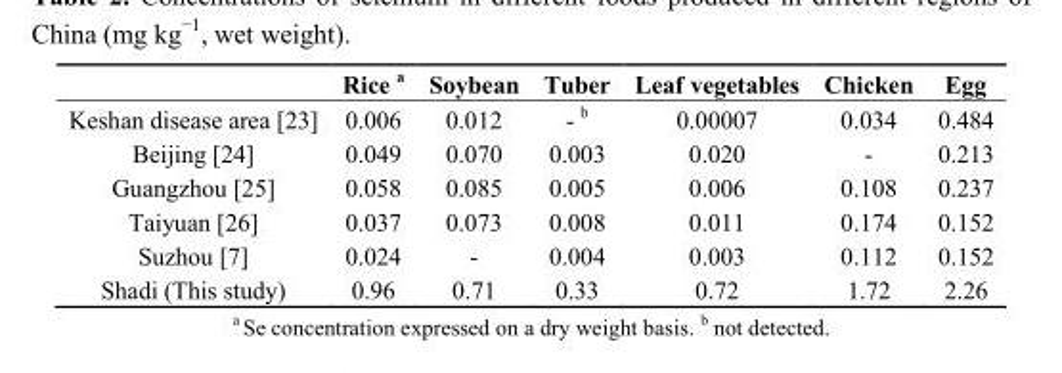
<table><thead><tr><td></td><td>Rice <sup>a</sup></td><td>Soybean</td><td>Tuber</td><td>Leaf vegetables</td><td>Chicken</td><td>Egg</td></tr></thead><tbody><tr><td>Keshan disease area [23]</td><td>0.006</td><td>0.012</td><td>- <sup>b</sup></td><td>0.00007</td><td>0.034</td><td>0.484</td></tr><tr><td>Beijing [24]</td><td>0.049</td><td>0.070</td><td>0.003</td><td>0.020</td><td>-</td><td>0.213</td></tr><tr><td>Guangzhou [25]</td><td>0.058</td><td>0.085</td><td>0.005</td><td>0.006</td><td>0.108</td><td>0.237</td></tr><tr><td>Taiyuan [26]</td><td>0.037</td><td>0.073</td><td>0.008</td><td>0.011</td><td>0.174</td><td>0.152</td></tr><tr><td>Suzhou [7]</td><td>0.024</td><td>-</td><td>0.004</td><td>0.003</td><td>0.112</td><td>0.152</td></tr><tr><td>Shadi (This study)</td><td>0.96</td><td>0.71</td><td>0.33</td><td>0.72</td><td>1.72</td><td>2.26</td></tr></tbody></table>